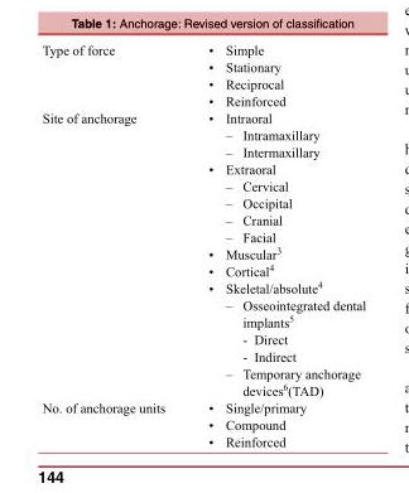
<table><tbody><tr><td rowspan="4">Type of force</td><td>• Simple</td></tr><tr><td>• Stationary</td></tr><tr><td>• Reciprocal</td></tr><tr><td>• Reinforced</td></tr><tr><td rowspan="17">Site of anchorage</td><td>• Intraoral</td></tr><tr><td>– Intramaxillary</td></tr><tr><td>– Intermaxillary</td></tr><tr><td>• Extraoral</td></tr><tr><td>– Cervical</td></tr><tr><td>– Occipital</td></tr><tr><td>– Cranial</td></tr><tr><td>– Facial</td></tr><tr><td>• Muscular<sup>3</sup></td></tr><tr><td>• Cortical<sup>4</sup></td></tr><tr><td>• Skeletal/absolute<sup>4</sup></td></tr><tr><td>– Osseointegrated dental</td></tr><tr><td>implants<sup>5</sup></td></tr><tr><td>- Direct</td></tr><tr><td>- Indirect</td></tr><tr><td>– Temporary anchorage</td></tr><tr><td>devices<sup>6</sup>(TAD)</td></tr><tr><td rowspan="3">No. of anchorage units</td><td>• Single/primary</td></tr><tr><td>• Compound</td></tr><tr><td>• Reinforced</td></tr></tbody></table>